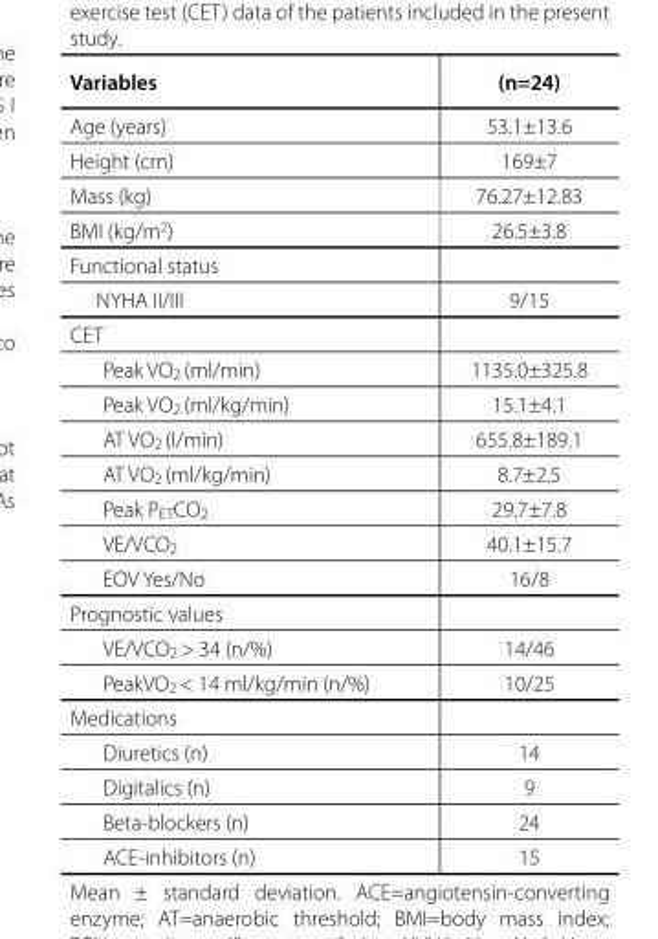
<table><thead><tr><td>Variables</td><td>(n=24)</td></tr></thead><tbody><tr><td>Age (years)</td><td>53.1±13.6</td></tr><tr><td>Height (cm)</td><td>169±7</td></tr><tr><td>Mass (kg)</td><td>76.27±12.83</td></tr><tr><td>BMI (kg/m<sup>2</sup>)</td><td>26.5±3.8</td></tr><tr><td colspan="2">Functional status</td></tr><tr><td>NYHA II/III</td><td>9/15</td></tr><tr><td colspan="2">CET</td></tr><tr><td>Peak VO<sub>2</sub> (ml/min)</td><td>1135.0±325.8</td></tr><tr><td>Peak VO<sub>2</sub> (ml/kg/min)</td><td>15.1±4.1</td></tr><tr><td>AT VO<sub>2</sub> (l/min)</td><td>655.8±189.1</td></tr><tr><td>AT VO<sub>2</sub> (ml/kg/min)</td><td>8.7±2.5</td></tr><tr><td>Peak P<sub>ET</sub>CO<sub>2</sub></td><td>29.7±7.8</td></tr><tr><td>VE/VCO<sub>2</sub></td><td>40.1±15.7</td></tr><tr><td>EOV Yes/No</td><td>16/8</td></tr><tr><td colspan="2">Prognostic values</td></tr><tr><td>VE/VCO<sub>2</sub> &gt; 34 (n/%)</td><td>14/46</td></tr><tr><td>PeakVO<sub>2</sub> &lt; 14 ml/kg/min (n/%)</td><td>10/25</td></tr><tr><td colspan="2">Medications</td></tr><tr><td>Diuretics (n)</td><td>14</td></tr><tr><td>Digitalics (n)</td><td>9</td></tr><tr><td>Beta-blockers (n)</td><td>24</td></tr><tr><td>ACE-inhibitors (n)</td><td>15</td></tr></tbody></table>